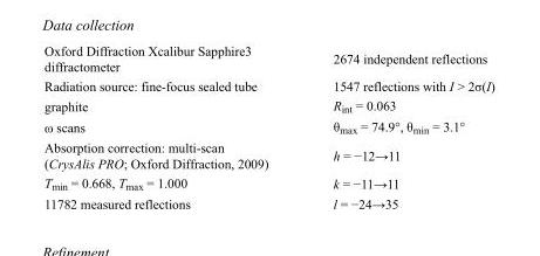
<table><tbody><tr><td>Oxford Diffraction Xcalibur Sapphire3 diffractometer</td><td>2674 independent reflections</td></tr><tr><td>Radiation source: fine-focus sealed tube</td><td>1547 reflections with I &gt; 2σ(I)</td></tr><tr><td>graphite</td><td>R<sub>int</sub> = 0.063</td></tr><tr><td>ω scans</td><td>θ<sub>max</sub> = 74.9°, θ<sub>min</sub> = 3.1°</td></tr><tr><td>Absorption correction: multi-scan (CrysAlis PRO; Oxford Diffraction, 2009)</td><td>h = −12→11</td></tr><tr><td>T<sub>min</sub> = 0.668, T<sub>max</sub> = 1.000</td><td>k = −11→11</td></tr><tr><td>11782 measured reflections</td><td>l = −24→35</td></tr></tbody></table>